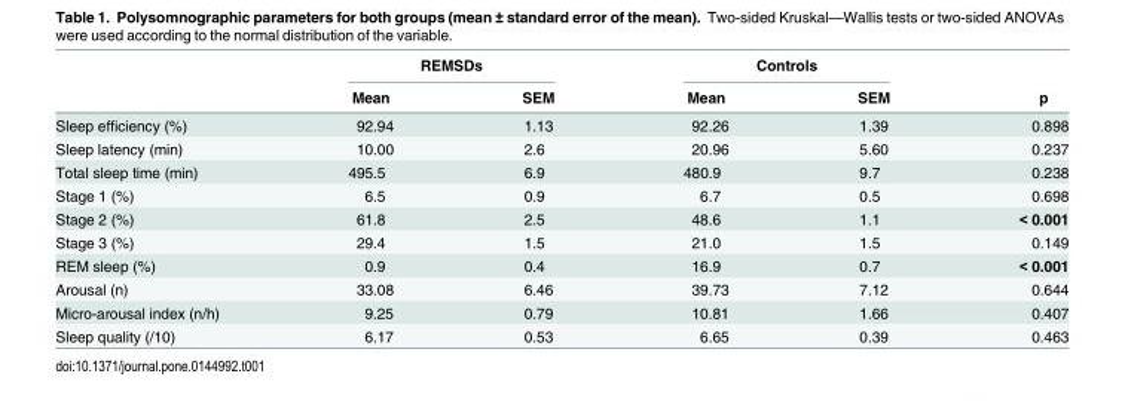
<table><thead><tr><td rowspan="2"></td><td colspan="2">REMSDs</td><td colspan="2">Controls</td><td rowspan="2">p</td></tr><tr><td>Mean</td><td>SEM</td><td>Mean</td><td>SEM</td></tr></thead><tbody><tr><td>Sleep efficiency (%)</td><td>92.94</td><td>1.13</td><td>92.26</td><td>1.39</td><td>0.898</td></tr><tr><td>Sleep latency (min)</td><td>10.00</td><td>2.6</td><td>20.96</td><td>5.60</td><td>0.237</td></tr><tr><td>Total sleep time (min)</td><td>495.5</td><td>6.9</td><td>480.9</td><td>9.7</td><td>0.238</td></tr><tr><td>Stage 1 (%)</td><td>6.5</td><td>0.9</td><td>6.7</td><td>0.5</td><td>0.698</td></tr><tr><td>Stage 2 (%)</td><td>61.8</td><td>2.5</td><td>48.6</td><td>1.1</td><td>&lt; 0.001</td></tr><tr><td>Stage 3 (%)</td><td>29.4</td><td>1.5</td><td>21.0</td><td>1.5</td><td>0.149</td></tr><tr><td>REM sleep (%)</td><td>0.9</td><td>0.4</td><td>16.9</td><td>0.7</td><td>&lt; 0.001</td></tr><tr><td>Arousal (n)</td><td>33.08</td><td>6.46</td><td>39.73</td><td>7.12</td><td>0.644</td></tr><tr><td>Micro-arousal index (n/h)</td><td>9.25</td><td>0.79</td><td>10.81</td><td>1.66</td><td>0.407</td></tr><tr><td>Sleep quality (/10)</td><td>6.17</td><td>0.53</td><td>6.65</td><td>0.39</td><td>0.463</td></tr></tbody></table>